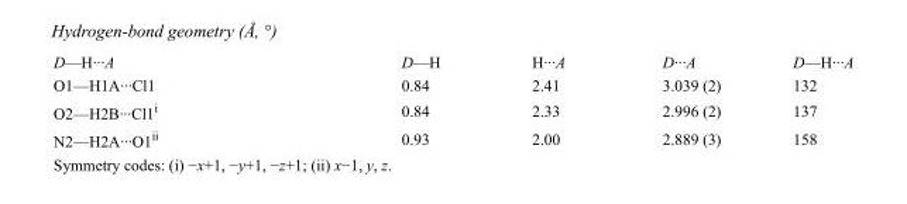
<table><tbody><tr><td>D—H···A</td><td>D—H</td><td>H···A</td><td>D···A</td><td>D—H···A</td></tr><tr><td>O1—H1A···Cl1</td><td>0.84</td><td>2.41</td><td>3.039 (2)</td><td>132</td></tr><tr><td>O2—H2B···Cl1<sup>i</sup></td><td>0.84</td><td>2.33</td><td>2.996 (2)</td><td>137</td></tr><tr><td>N2—H2A···O1<sup>ii</sup></td><td>0.93</td><td>2.00</td><td>2.889 (3)</td><td>158</td></tr></tbody></table>